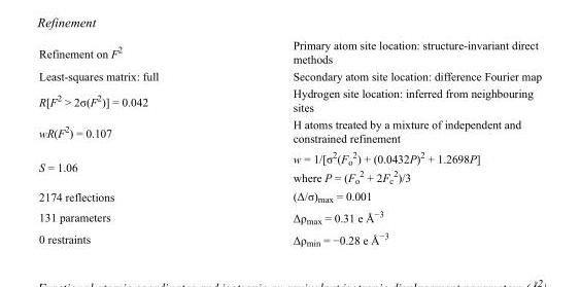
<table><tbody><tr><td>Refinement on F<sup>2</sup></td><td>Primary atom site location: structure-invariant direct methods</td></tr><tr><td>Least-squares matrix: full</td><td>Secondary atom site location: difference Fourier map</td></tr><tr><td>R[F<sup>2</sup> &gt; 2σ(F<sup>2</sup>)] = 0.042</td><td>Hydrogen site location: inferred from neighbouring sites</td></tr><tr><td>wR(F<sup>2</sup>) = 0.107</td><td>H atoms treated by a mixture of independent and constrained refinement</td></tr><tr><td>S = 1.06</td><td>w = 1/[σ<sup>2</sup>(F<sub>o</sub> <sup>2</sup>) + (0.0432P)<sup>2</sup> + 1.2698P] where P = (F<sub>o</sub> <sup>2</sup> + 2F<sub>c</sub> <sup>2</sup>)/3</td></tr><tr><td>2174 reflections</td><td>(Δ/σ)<sub>max</sub> = 0.001</td></tr><tr><td>131 parameters</td><td>Δρ<sub>max</sub> = 0.31 e Å<sup>−3</sup></td></tr><tr><td>0 restraints</td><td>Δρ<sub>min</sub> = −0.28 e Å<sup>−3</sup></td></tr></tbody></table>